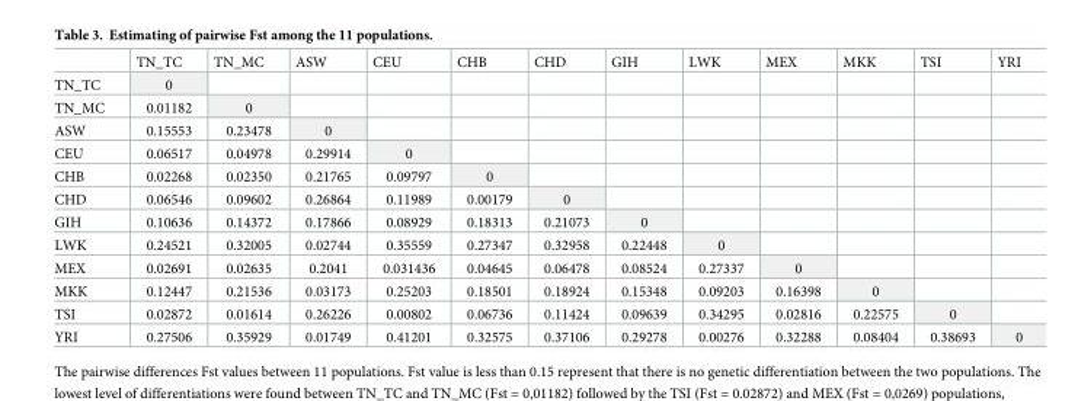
<table><thead><tr><td></td><td>TN_TC</td><td>TN_MC</td><td>ASW</td><td>CEU</td><td>CHB</td><td>CHD</td><td>GIH</td><td>LWK</td><td>MEX</td><td>MKK</td><td>TSI</td><td>YRI</td></tr></thead><tbody><tr><td>TN_TC</td><td>0</td><td></td><td></td><td></td><td></td><td></td><td></td><td></td><td></td><td></td><td></td><td></td></tr><tr><td>TN_MC</td><td>0.01182</td><td>0</td><td></td><td></td><td></td><td></td><td></td><td></td><td></td><td></td><td></td><td></td></tr><tr><td>ASW</td><td>0.15553</td><td>0.23478</td><td>0</td><td></td><td></td><td></td><td></td><td></td><td></td><td></td><td></td><td></td></tr><tr><td>CEU</td><td>0.06517</td><td>0.04978</td><td>0.29914</td><td>0</td><td></td><td></td><td></td><td></td><td></td><td></td><td></td><td></td></tr><tr><td>CHB</td><td>0.02268</td><td>0.02350</td><td>0.21765</td><td>0.09797</td><td>0</td><td></td><td></td><td></td><td></td><td></td><td></td><td></td></tr><tr><td>CHD</td><td>0.06546</td><td>0.09602</td><td>0.26864</td><td>0.11989</td><td>0.00179</td><td>0</td><td></td><td></td><td></td><td></td><td></td><td></td></tr><tr><td>GIH</td><td>0.10636</td><td>0.14372</td><td>0.17866</td><td>0.08929</td><td>0.18313</td><td>0.21073</td><td>0</td><td></td><td></td><td></td><td></td><td></td></tr><tr><td>LWK</td><td>0.24521</td><td>0.32005</td><td>0.02744</td><td>0.35559</td><td>0.27347</td><td>0.32958</td><td>0.22448</td><td>0</td><td></td><td></td><td></td><td></td></tr><tr><td>MEX</td><td>0.02691</td><td>0.02635</td><td>0.2041</td><td>0.031436</td><td>0.04645</td><td>0.06478</td><td>0.08524</td><td>0.27337</td><td>0</td><td></td><td></td><td></td></tr><tr><td>MKK</td><td>0.12447</td><td>0.21536</td><td>0.03173</td><td>0.25203</td><td>0.18501</td><td>0.18924</td><td>0.15348</td><td>0.09203</td><td>0.16398</td><td>0</td><td></td><td></td></tr><tr><td>TSI</td><td>0.02872</td><td>0.01614</td><td>0.26226</td><td>0.00802</td><td>0.06736</td><td>0.11424</td><td>0.09639</td><td>0.34295</td><td>0.02816</td><td>0.22575</td><td>0</td><td></td></tr><tr><td>YRI</td><td>0.27506</td><td>0.35929</td><td>0.01749</td><td>0.41201</td><td>0.32575</td><td>0.37106</td><td>0.29278</td><td>0.00276</td><td>0.32288</td><td>0.08404</td><td>0.38693</td><td>0</td></tr></tbody></table>